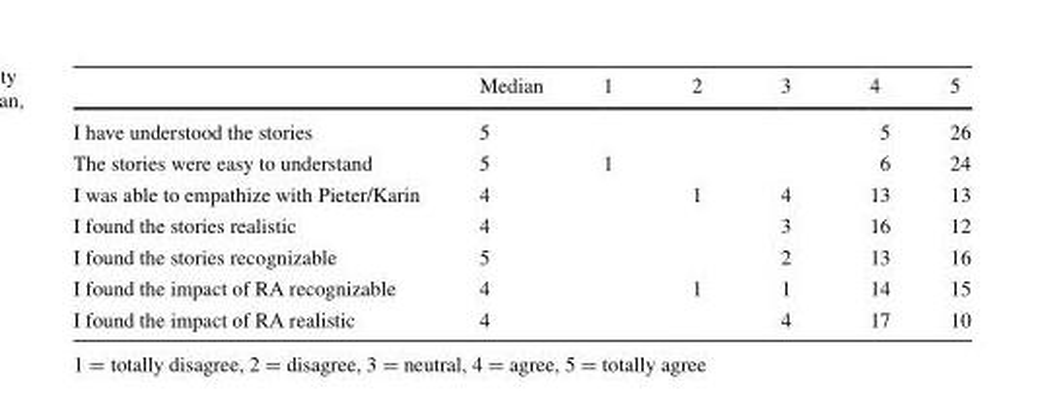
<table><thead><tr><td></td><td>Median</td><td>1</td><td>2</td><td>3</td><td>4</td><td>5</td></tr></thead><tbody><tr><td>I have understood the stories</td><td>5</td><td></td><td></td><td></td><td>5</td><td>26</td></tr><tr><td>The stories were easy to understand</td><td>5</td><td>1</td><td></td><td></td><td>6</td><td>24</td></tr><tr><td>I was able to empathize with Pieter/Karin</td><td>4</td><td></td><td>1</td><td>4</td><td>13</td><td>13</td></tr><tr><td>I found the stories realistic</td><td>4</td><td></td><td></td><td>3</td><td>16</td><td>12</td></tr><tr><td>I found the stories recognizable</td><td>5</td><td></td><td></td><td>2</td><td>13</td><td>16</td></tr><tr><td>I found the impact of RA recognizable</td><td>4</td><td></td><td>1</td><td>1</td><td>14</td><td>15</td></tr><tr><td>I found the impact of RA realistic</td><td>4</td><td></td><td></td><td>4</td><td>17</td><td>10</td></tr></tbody></table>